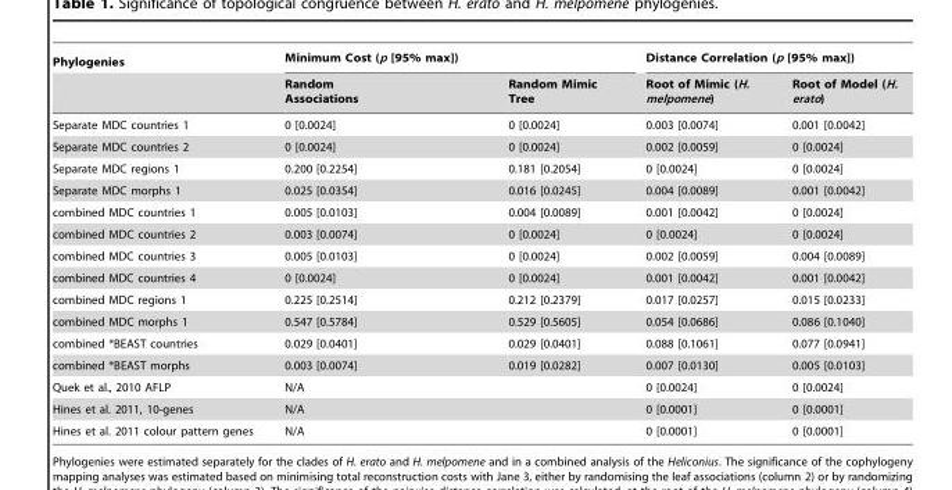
<table><thead><tr><td rowspan="2">Phylogenies</td><td colspan="2">Minimum Cost (p [95% max])</td><td colspan="2">Distance Correlation (p [95% max])</td></tr><tr><td>Random Associations</td><td>Random Mimic Tree</td><td>Root of Mimic (H. melpomene)</td><td>Root of Model (H. erato)</td></tr></thead><tbody><tr><td>Separate MDC countries 1</td><td>0 [0.0024]</td><td>0 [0.0024]</td><td>0.003 [0.0074]</td><td>0.001 [0.0042]</td></tr><tr><td>Separate MDC countries 2</td><td>0 [0.0024]</td><td>0 [0.0024]</td><td>0.002 [0.0059]</td><td>0 [0.0024]</td></tr><tr><td>Separate MDC regions 1</td><td>0.200 [0.2254]</td><td>0.181 [0.2054]</td><td>0 [0.0024]</td><td>0 [0.0024]</td></tr><tr><td>Separate MDC morphs 1</td><td>0.025 [0.0354]</td><td>0.016 [0.0245]</td><td>0.004 [0.0089]</td><td>0.001 [0.0042]</td></tr><tr><td>combined MDC countries 1</td><td>0.005 [0.0103]</td><td>0.004 [0.0089]</td><td>0.001 [0.0042]</td><td>0 [0.0024]</td></tr><tr><td>combined MDC countries 2</td><td>0.003 [0.0074]</td><td>0 [0.0024]</td><td>0 [0.0024]</td><td>0 [0.0024]</td></tr><tr><td>combined MDC countries 3</td><td>0.005 [0.0103]</td><td>0 [0.0024]</td><td>0.002 [0.0059]</td><td>0.004 [0.0089]</td></tr><tr><td>combined MDC countries 4</td><td>0 [0.0024]</td><td>0 [0.0024]</td><td>0.001 [0.0042]</td><td>0.001 [0.0042]</td></tr><tr><td>combined MDC regions 1</td><td>0.225 [0.2514]</td><td>0.212 [0.2379]</td><td>0.017 [0.0257]</td><td>0.015 [0.0233]</td></tr><tr><td>combined MDC morphs 1</td><td>0.547 [0.5784]</td><td>0.529 [0.5605]</td><td>0.054 [0.0686]</td><td>0.086 [0.1040]</td></tr><tr><td>combined *BEAST countries</td><td>0.029 [0.0401]</td><td>0.029 [0.0401]</td><td>0.088 [0.1061]</td><td>0.077 [0.0941]</td></tr><tr><td>combined *BEAST morphs</td><td>0.003 [0.0074]</td><td>0.019 [0.0282]</td><td>0.007 [0.0130]</td><td>0.005 [0.0103]</td></tr><tr><td>Quek et al., 2010 AFLP</td><td colspan="2">N/A</td><td>0 [0.0024]</td><td>0 [0.0024]</td></tr><tr><td>Hines et al. 2011, 10-genes</td><td colspan="2">N/A</td><td>0 [0.0001]</td><td>0 [0.0001]</td></tr><tr><td>Hines et al. 2011 colour pattern genes</td><td colspan="2">N/A</td><td>0 [0.0001]</td><td>0 [0.0001]</td></tr></tbody></table>